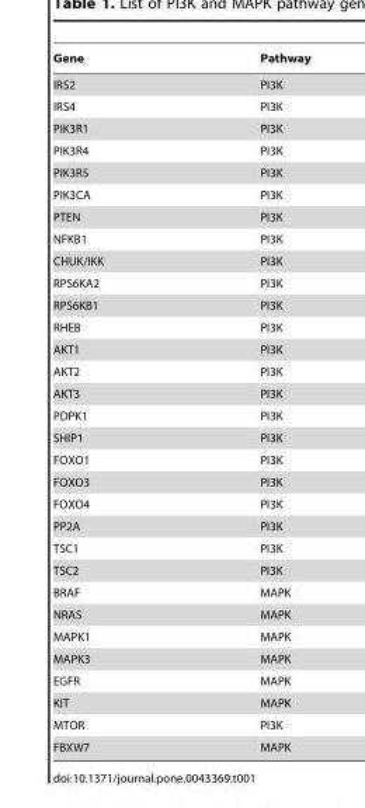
<table><thead><tr><td>Gene</td><td>Pathway</td></tr></thead><tbody><tr><td>IRS2</td><td>PI3K</td></tr><tr><td>IRS4</td><td>PI3K</td></tr><tr><td>PIK3R1</td><td>PI3K</td></tr><tr><td>PIK3R4</td><td>PI3K</td></tr><tr><td>PIK3R5</td><td>PI3K</td></tr><tr><td>PIK3CA</td><td>PI3K</td></tr><tr><td>PTEN</td><td>PI3K</td></tr><tr><td>NFKB1</td><td>PI3K</td></tr><tr><td>CHUK/IKK</td><td>PI3K</td></tr><tr><td>RPS6KA2</td><td>PI3K</td></tr><tr><td>RPS6KB1</td><td>PI3K</td></tr><tr><td>RHEB</td><td>PI3K</td></tr><tr><td>AKT1</td><td>PI3K</td></tr><tr><td>AKT2</td><td>PI3K</td></tr><tr><td>AKT3</td><td>PI3K</td></tr><tr><td>PDPK1</td><td>PI3K</td></tr><tr><td>SHIP1</td><td>PI3K</td></tr><tr><td>FOXO1</td><td>PI3K</td></tr><tr><td>FOXO3</td><td>PI3K</td></tr><tr><td>FOXO4</td><td>PI3K</td></tr><tr><td>PP2A</td><td>PI3K</td></tr><tr><td>TSC1</td><td>PI3K</td></tr><tr><td>TSC2</td><td>PI3K</td></tr><tr><td>BRAF</td><td>MAPK</td></tr><tr><td>NRAS</td><td>MAPK</td></tr><tr><td>MAPK1</td><td>MAPK</td></tr><tr><td>MAPK3</td><td>MAPK</td></tr><tr><td>EGFR</td><td>MAPK</td></tr><tr><td>KIT</td><td>MAPK</td></tr><tr><td>MTOR</td><td>PI3K</td></tr><tr><td>FBXW7</td><td>MAPK</td></tr></tbody></table>